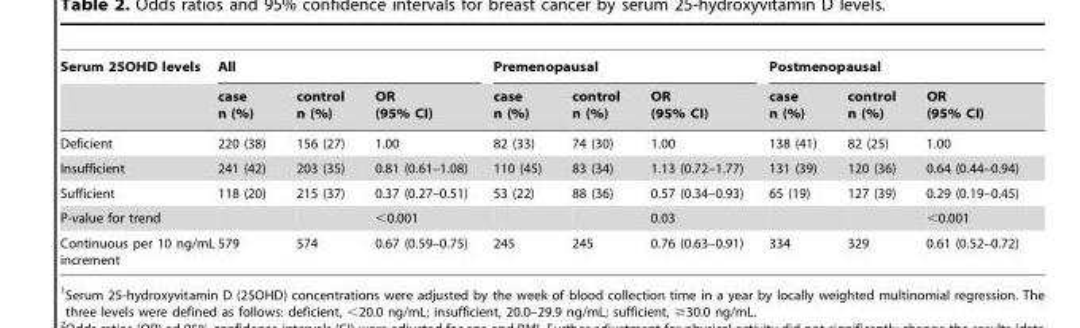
<table><thead><tr><td rowspan="2">Serum 25OHD levels</td><td colspan="3">All</td><td colspan="3">Premenopausal</td><td colspan="3">Postmenopausal</td></tr><tr><td>case n (%)</td><td>control n (%)</td><td>OR (95% CI)</td><td>case n (%)</td><td>control n (%)</td><td>OR (95% CI)</td><td>case n (%)</td><td>control n (%)</td><td>OR (95% CI)</td></tr></thead><tbody><tr><td>Deficient</td><td>220 (38)</td><td>156 (27)</td><td>1.00</td><td>82 (33)</td><td>74 (30)</td><td>1.00</td><td>138 (41)</td><td>82 (25)</td><td>1.00</td></tr><tr><td>Insufficient</td><td>241 (42)</td><td>203 (35)</td><td>0.81 (0.61–1.08)</td><td>110 (45)</td><td>83 (34)</td><td>1.13 (0.72–1.77)</td><td>131 (39)</td><td>120 (36)</td><td>0.64 (0.44–0.94)</td></tr><tr><td>Sufficient</td><td>118 (20)</td><td>215 (37)</td><td>0.37 (0.27–0.51)</td><td>53 (22)</td><td>88 (36)</td><td>0.57 (0.34–0.93)</td><td>65 (19)</td><td>127 (39)</td><td>0.29 (0.19–0.45)</td></tr><tr><td>P-value for trend</td><td></td><td></td><td>&lt;0.001</td><td></td><td></td><td>0.03</td><td></td><td></td><td>&lt;0.001</td></tr><tr><td>Continuous per 10 ng/mL increment</td><td>579</td><td>574</td><td>0.67 (0.59–0.75)</td><td>245</td><td>245</td><td>0.76 (0.63–0.91)</td><td>334</td><td>329</td><td>0.61 (0.52–0.72)</td></tr></tbody></table>